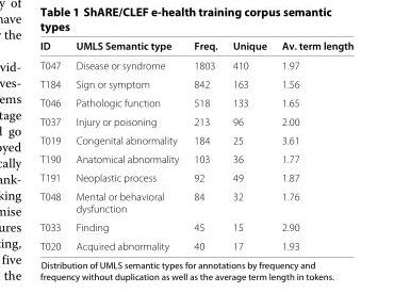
<table><thead><tr><td>ID</td><td>UMLS Semantic type</td><td>Freq.</td><td>Unique</td><td>Av. term length</td></tr></thead><tbody><tr><td>T047</td><td>Disease or syndrome</td><td>1803</td><td>410</td><td>1.97</td></tr><tr><td>T184</td><td>Sign or symptom</td><td>842</td><td>163</td><td>1.56</td></tr><tr><td>T046</td><td>Pathologic function</td><td>518</td><td>133</td><td>1.65</td></tr><tr><td>T037</td><td>Injury or poisoning</td><td>213</td><td>96</td><td>2.00</td></tr><tr><td>T019</td><td>Congenital abnormality</td><td>184</td><td>25</td><td>3.61</td></tr><tr><td>T190</td><td>Anatomical abnormality</td><td>103</td><td>36</td><td>1.77</td></tr><tr><td>T191</td><td>Neoplastic process</td><td>92</td><td>49</td><td>1.87</td></tr><tr><td>T048</td><td>Mental or behavioral dysfunction</td><td>84</td><td>32</td><td>1.76</td></tr><tr><td>T033</td><td>Finding</td><td>45</td><td>15</td><td>2.90</td></tr><tr><td>T020</td><td>Acquired abnormality</td><td>40</td><td>17</td><td>1.93</td></tr></tbody></table>